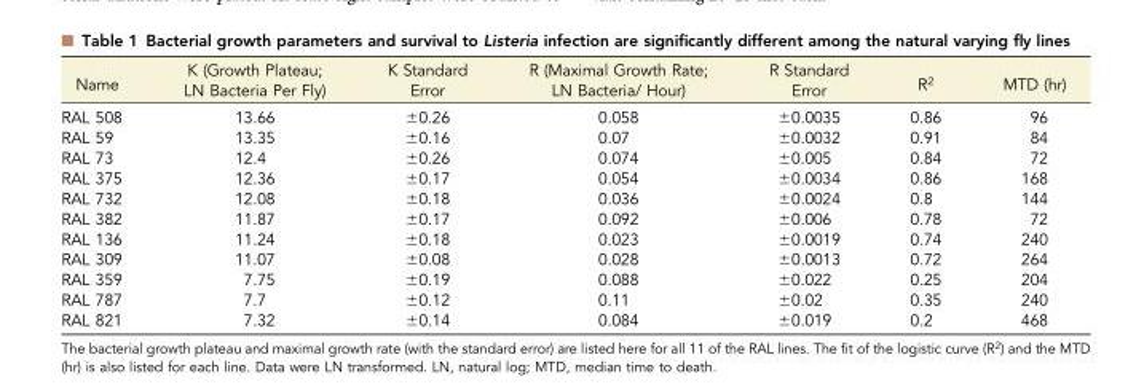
<table><thead><tr><td>Name</td><td>K (Growth Plateau; LN Bacteria Per Fly)</td><td>K Standard Error</td><td>R (Maximal Growth Rate; LN Bacteria/ Hour)</td><td>R Standard Error</td><td>R<sup>2</sup></td><td>MTD (hr)</td></tr></thead><tbody><tr><td>RAL 508</td><td>13.66</td><td>±0.26</td><td>0.058</td><td>±0.0035</td><td>0.86</td><td>96</td></tr><tr><td>RAL 59</td><td>13.35</td><td>±0.16</td><td>0.07</td><td>±0.0032</td><td>0.91</td><td>84</td></tr><tr><td>RAL 73</td><td>12.4</td><td>±0.26</td><td>0.074</td><td>±0.005</td><td>0.84</td><td>72</td></tr><tr><td>RAL 375</td><td>12.36</td><td>±0.17</td><td>0.054</td><td>±0.0034</td><td>0.86</td><td>168</td></tr><tr><td>RAL 732</td><td>12.08</td><td>±0.18</td><td>0.036</td><td>±0.0024</td><td>0.8</td><td>144</td></tr><tr><td>RAL 382</td><td>11.87</td><td>±0.17</td><td>0.092</td><td>±0.006</td><td>0.78</td><td>72</td></tr><tr><td>RAL 136</td><td>11.24</td><td>±0.18</td><td>0.023</td><td>±0.0019</td><td>0.74</td><td>240</td></tr><tr><td>RAL 309</td><td>11.07</td><td>±0.08</td><td>0.028</td><td>±0.0013</td><td>0.72</td><td>264</td></tr><tr><td>RAL 359</td><td>7.75</td><td>±0.19</td><td>0.088</td><td>±0.022</td><td>0.25</td><td>204</td></tr><tr><td>RAL 787</td><td>7.7</td><td>±0.12</td><td>0.11</td><td>±0.02</td><td>0.35</td><td>240</td></tr><tr><td>RAL 821</td><td>7.32</td><td>±0.14</td><td>0.084</td><td>±0.019</td><td>0.2</td><td>468</td></tr></tbody></table>